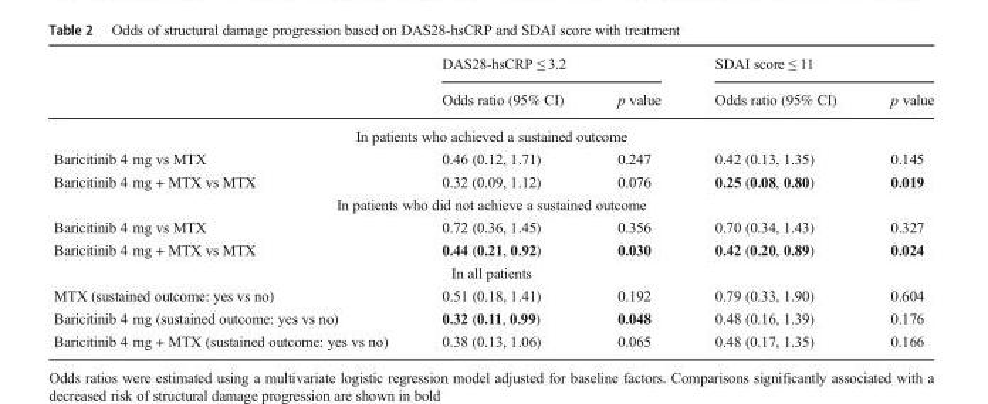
<table><thead><tr><td rowspan="2"></td><td colspan="2">DAS28-hsCRP ≤ 3.2</td><td colspan="2">SDAI score ≤ 11</td></tr><tr><td>Odds ratio (95% CI)</td><td>p value</td><td>Odds ratio (95% CI)</td><td>p value</td></tr></thead><tbody><tr><td colspan="5">In patients who achieved a sustained outcome</td></tr><tr><td>Baricitinib 4 mg vs MTX</td><td>0.46 (0.12, 1.71)</td><td>0.247</td><td>0.42 (0.13, 1.35)</td><td>0.145</td></tr><tr><td>Baricitinib 4 mg + MTX vs MTX</td><td>0.32 (0.09, 1.12)</td><td>0.076</td><td>0.25 (0.08, 0.80)</td><td>0.019</td></tr><tr><td colspan="5">In patients who did not achieve a sustained outcome</td></tr><tr><td>Baricitinib 4 mg vs MTX</td><td>0.72 (0.36, 1.45)</td><td>0.356</td><td>0.70 (0.34, 1.43)</td><td>0.327</td></tr><tr><td>Baricitinib 4 mg + MTX vs MTX</td><td>0.44 (0.21, 0.92)</td><td>0.030</td><td>0.42 (0.20, 0.89)</td><td>0.024</td></tr><tr><td colspan="5">In all patients</td></tr><tr><td>MTX (sustained outcome: yes vs no)</td><td>0.51 (0.18, 1.41)</td><td>0.192</td><td>0.79 (0.33, 1.90)</td><td>0.604</td></tr><tr><td>Baricitinib 4 mg (sustained outcome: yes vs no)</td><td>0.32 (0.11, 0.99)</td><td>0.048</td><td>0.48 (0.16, 1.39)</td><td>0.176</td></tr><tr><td>Baricitinib 4 mg + MTX (sustained outcome: yes vs no)</td><td>0.38 (0.13, 1.06)</td><td>0.065</td><td>0.48 (0.17, 1.35)</td><td>0.166</td></tr></tbody></table>